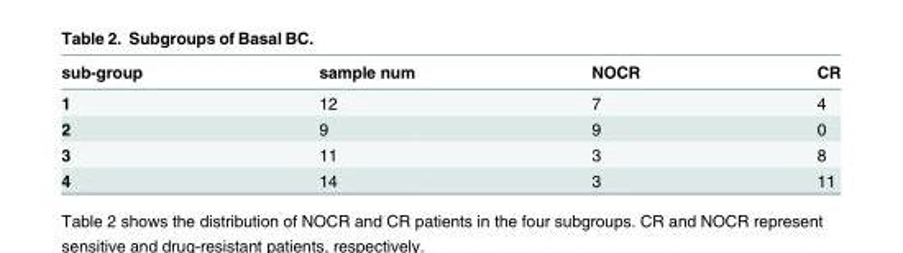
<table><thead><tr><td>sub-group</td><td>sample num</td><td>NOCR</td><td>CR</td></tr></thead><tbody><tr><td>1</td><td>12</td><td>7</td><td>4</td></tr><tr><td>2</td><td>9</td><td>9</td><td>0</td></tr><tr><td>3</td><td>11</td><td>3</td><td>8</td></tr><tr><td>4</td><td>14</td><td>3</td><td>11</td></tr></tbody></table>